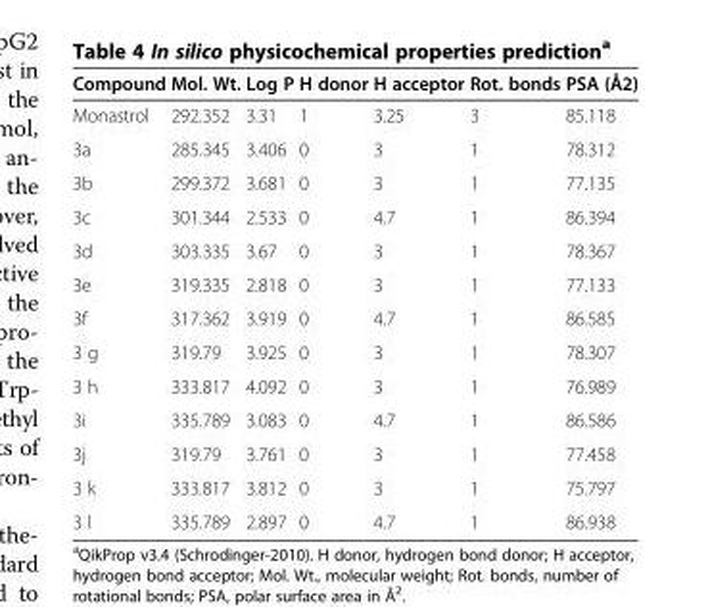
<table><thead><tr><td>Compound</td><td>Mol. Wt.</td><td>Log P</td><td>H donor</td><td>H acceptor</td><td>Rot. bonds</td><td>PSA (Å2)</td></tr></thead><tbody><tr><td>Monastrol</td><td>292.352</td><td>3.31</td><td>1</td><td>3.25</td><td>3</td><td>85.118</td></tr><tr><td>3a</td><td>285.345</td><td>3.406</td><td>0</td><td>3</td><td>1</td><td>78.312</td></tr><tr><td>3b</td><td>299.372</td><td>3.681</td><td>0</td><td>3</td><td>1</td><td>77.135</td></tr><tr><td>3c</td><td>301.344</td><td>2.533</td><td>0</td><td>4.7</td><td>1</td><td>86.394</td></tr><tr><td>3d</td><td>303.335</td><td>3.67</td><td>0</td><td>3</td><td>1</td><td>78.367</td></tr><tr><td>3e</td><td>319.335</td><td>2.818</td><td>0</td><td>3</td><td>1</td><td>77.133</td></tr><tr><td>3f</td><td>317.362</td><td>3.919</td><td>0</td><td>4.7</td><td>1</td><td>86.585</td></tr><tr><td>3 g</td><td>319.79</td><td>3.925</td><td>0</td><td>3</td><td>1</td><td>78.307</td></tr><tr><td>3 h</td><td>333.817</td><td>4.092</td><td>0</td><td>3</td><td>1</td><td>76.989</td></tr><tr><td>3i</td><td>335.789</td><td>3.083</td><td>0</td><td>4.7</td><td>1</td><td>86.586</td></tr><tr><td>3j</td><td>319.79</td><td>3.761</td><td>0</td><td>3</td><td>1</td><td>77.458</td></tr><tr><td>3 k</td><td>333.817</td><td>3.812</td><td>0</td><td>3</td><td>1</td><td>75.797</td></tr><tr><td>3 l</td><td>335.789</td><td>2.897</td><td>0</td><td>4.7</td><td>1</td><td>86.938</td></tr></tbody></table>